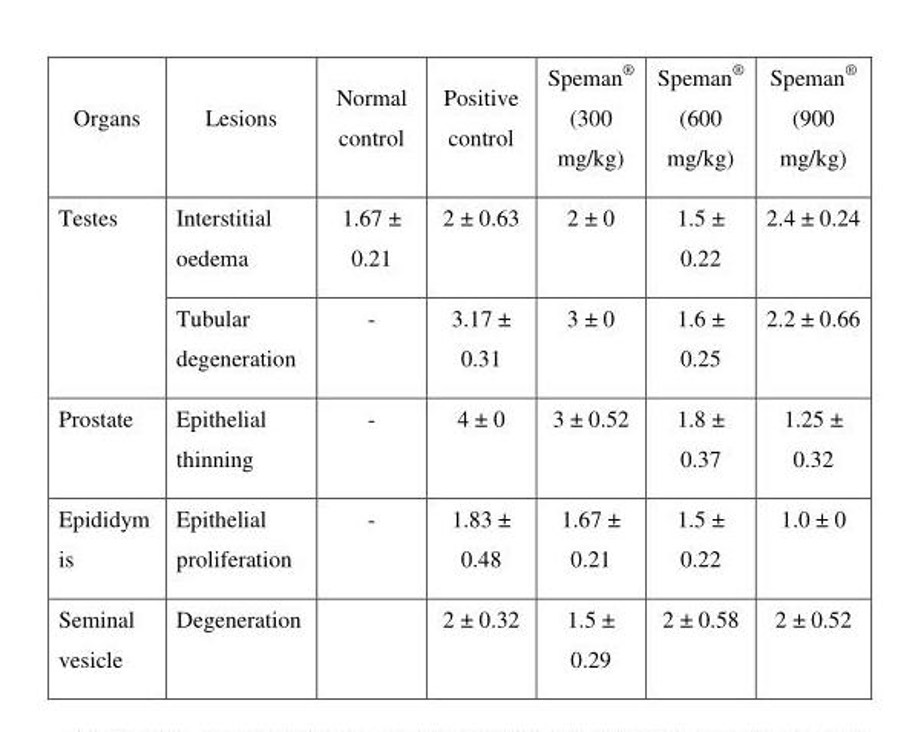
<table><thead><tr><td>Organs</td><td>Lesions</td><td>Normal control</td><td>Positive control</td><td>Speman<sup>®</sup> (300 mg/kg)</td><td>Speman<sup>®</sup> (600 mg/kg)</td><td>Speman<sup>®</sup> (900 mg/kg)</td></tr></thead><tbody><tr><td rowspan="2">Testes</td><td>Interstitial oedema</td><td>1.67 ± 0.21</td><td>2 ± 0.63</td><td>2 ± 0</td><td>1.5 ± 0.22</td><td>2.4 ± 0.24</td></tr><tr><td>Tubular degeneration</td><td>-</td><td>3.17 ± 0.31</td><td>3 ± 0</td><td>1.6 ± 0.25</td><td>2.2 ± 0.66</td></tr><tr><td>Prostate</td><td>Epithelial thinning</td><td>-</td><td>4 ± 0</td><td>3 ± 0.52</td><td>1.8 ± 0.37</td><td>1.25 ± 0.32</td></tr><tr><td>Epididym is</td><td>Epithelial proliferation</td><td>-</td><td>1.83 ± 0.48</td><td>1.67 ± 0.21</td><td>1.5 ± 0.22</td><td>1.0 ± 0</td></tr><tr><td>Seminal vesicle</td><td>Degeneration</td><td></td><td>2 ± 0.32</td><td>1.5 ± 0.29</td><td>2 ± 0.58</td><td>2 ± 0.52</td></tr></tbody></table>